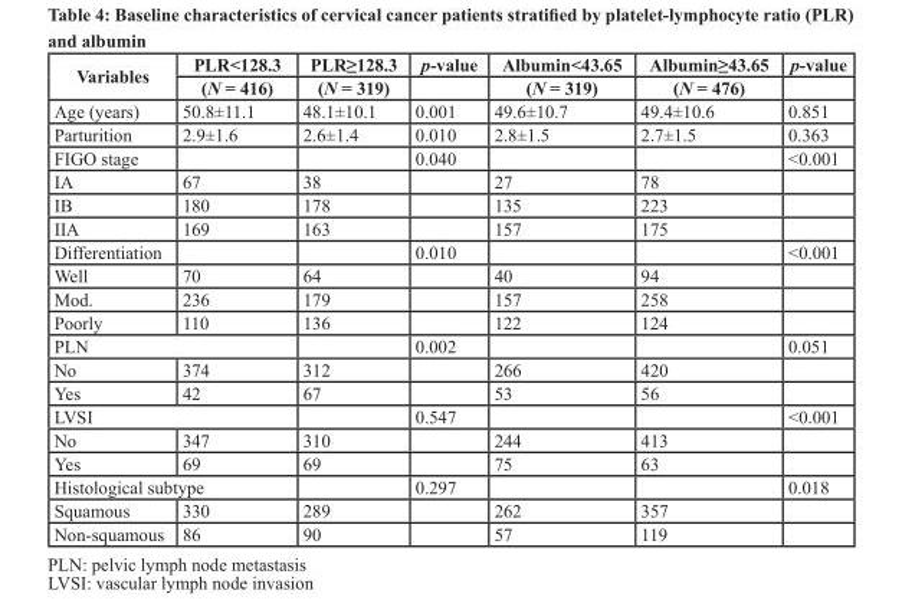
<table><thead><tr><td rowspan="2">Variables</td><td rowspan="2">PLR&lt;128.3 (N = 416)</td><td rowspan="2">PLR≥128.3 (N = 319)</td><td rowspan="2">p-value</td><td rowspan="2">Albumin&lt;43.65 (N = 319)</td><td rowspan="2">Albumin≥43.65 (N = 476)</td><td rowspan="2">p-value</td></tr><tr></tr></thead><tbody><tr><td>Age (years)</td><td>50.8±11.1</td><td>48.1±10.1</td><td>0.001</td><td>49.6±10.7</td><td>49.4±10.6</td><td>0.851</td></tr><tr><td>Parturition</td><td>2.9±1.6</td><td>2.6±1.4</td><td>0.010</td><td>2.8±1.5</td><td>2.7±1.5</td><td>0.363</td></tr><tr><td>FIGO stage</td><td></td><td></td><td>0.040</td><td></td><td></td><td>&lt;0.001</td></tr><tr><td>IA</td><td>67</td><td>38</td><td></td><td>27</td><td>78</td><td></td></tr><tr><td>IB</td><td>180</td><td>178</td><td></td><td>135</td><td>223</td><td></td></tr><tr><td>IIA</td><td>169</td><td>163</td><td></td><td>157</td><td>175</td><td></td></tr><tr><td>Differentiation</td><td></td><td></td><td>0.010</td><td></td><td></td><td>&lt;0.001</td></tr><tr><td>Well</td><td>70</td><td>64</td><td></td><td>40</td><td>94</td><td></td></tr><tr><td>Mod.</td><td>236</td><td>179</td><td></td><td>157</td><td>258</td><td></td></tr><tr><td>Poorly</td><td>110</td><td>136</td><td></td><td>122</td><td>124</td><td></td></tr><tr><td colspan="2">PLN</td><td></td><td>0.002</td><td></td><td></td><td>0.051</td></tr><tr><td>No</td><td>374</td><td>312</td><td></td><td>266</td><td>420</td><td></td></tr><tr><td>Yes</td><td>42</td><td>67</td><td></td><td>53</td><td>56</td><td></td></tr><tr><td colspan="2">LVSI</td><td></td><td>0.547</td><td></td><td></td><td>&lt;0.001</td></tr><tr><td>No</td><td>347</td><td>310</td><td></td><td>244</td><td>413</td><td></td></tr><tr><td>Yes</td><td>69</td><td>69</td><td></td><td>75</td><td>63</td><td></td></tr><tr><td colspan="2">Histological subtype</td><td></td><td>0.297</td><td></td><td></td><td>0.018</td></tr><tr><td>Squamous</td><td>330</td><td>289</td><td></td><td>262</td><td>357</td><td></td></tr><tr><td>Non-squamous</td><td>86</td><td>90</td><td></td><td>57</td><td>119</td><td></td></tr></tbody></table>